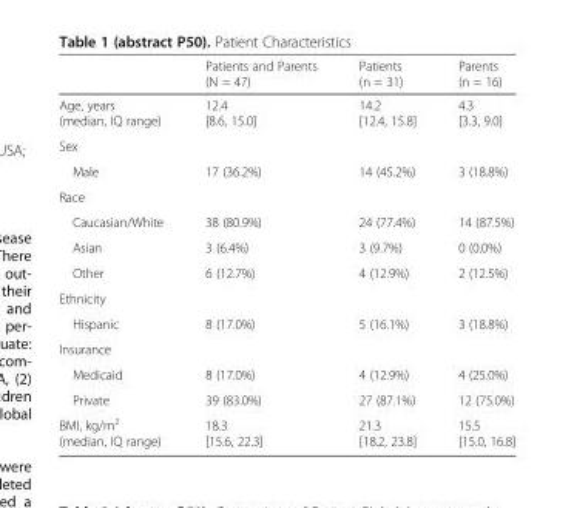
<table><thead><tr><td></td><td>Patients and Parents (N = 47)</td><td>Patients (n = 31)</td><td>Parents (n = 16)</td></tr></thead><tbody><tr><td>Age, years (median, IQ range)</td><td>12.4 [8.6, 15.0]</td><td>14.2 [12.4, 15.8]</td><td>4.3 [3.3, 9.0]</td></tr><tr><td colspan="4">Sex</td></tr><tr><td>Male</td><td>17 (36.2%)</td><td>14 (45.2%)</td><td>3 (18.8%)</td></tr><tr><td colspan="4">Race</td></tr><tr><td>Caucasian/White</td><td>38 (80.9%)</td><td>24 (77.4%)</td><td>14 (87.5%)</td></tr><tr><td>Asian</td><td>3 (6.4%)</td><td>3 (9.7%)</td><td>0 (0.0%)</td></tr><tr><td>Other</td><td>6 (12.7%)</td><td>4 (12.9%)</td><td>2 (12.5%)</td></tr><tr><td colspan="4">Ethnicity</td></tr><tr><td>Hispanic</td><td>8 (17.0%)</td><td>5 (16.1%)</td><td>3 (18.8%)</td></tr><tr><td colspan="4">Insurance</td></tr><tr><td>Medicaid</td><td>8 (17.0%)</td><td>4 (12.9%)</td><td>4 (25.0%)</td></tr><tr><td>Private</td><td>39 (83.0%)</td><td>27 (87.1%)</td><td>12 (75.0%)</td></tr><tr><td>BMI, kg/m<sup>2</sup> (median, IQ range)</td><td>18.3 [15.6, 22.3]</td><td>21.3 [18.2, 23.8]</td><td>15.5 [15.0, 16.8]</td></tr></tbody></table>